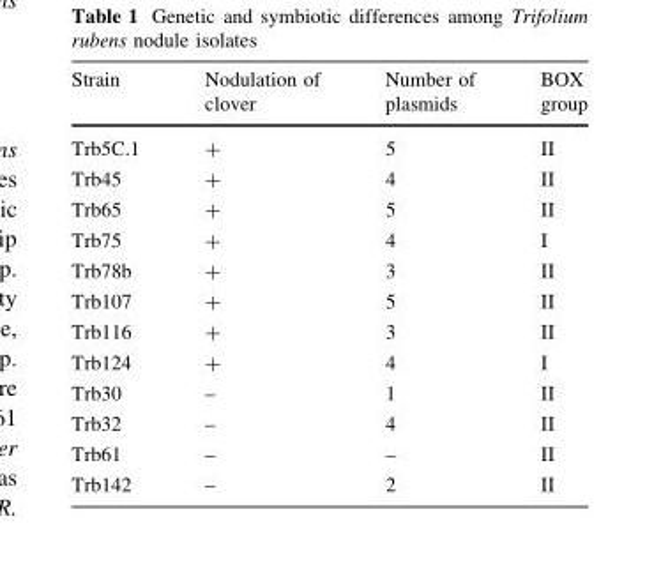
<table><thead><tr><td>Strain</td><td>Nodulation of clover</td><td>Number of plasmids</td><td>BOX group</td></tr></thead><tbody><tr><td>Trb5C.1</td><td>+</td><td>5</td><td>II</td></tr><tr><td>Trb45</td><td>+</td><td>4</td><td>II</td></tr><tr><td>Trb65</td><td>+</td><td>5</td><td>II</td></tr><tr><td>Trb75</td><td>+</td><td>4</td><td>I</td></tr><tr><td>Trb78b</td><td>+</td><td>3</td><td>II</td></tr><tr><td>Trb107</td><td>+</td><td>5</td><td>II</td></tr><tr><td>Trb116</td><td>+</td><td>3</td><td>II</td></tr><tr><td>Trb124</td><td>+</td><td>4</td><td>I</td></tr><tr><td>Trb30</td><td>–</td><td>1</td><td>II</td></tr><tr><td>Trb32</td><td>–</td><td>4</td><td>II</td></tr><tr><td>Trb61</td><td>–</td><td>–</td><td>II</td></tr><tr><td>Trb142</td><td>–</td><td>2</td><td>II</td></tr></tbody></table>